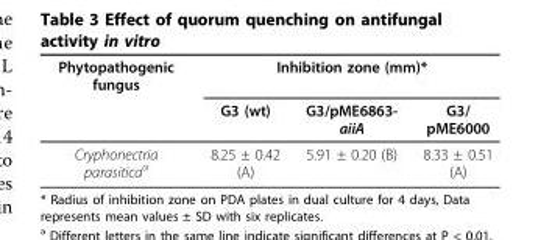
<table><thead><tr><td rowspan="2">Phytopathogenic fungus</td><td colspan="3">Inhibition zone (mm)*</td></tr><tr><td>G3 (wt)</td><td>G3/pME6863- aiiA</td><td>G3/ pME6000</td></tr></thead><tbody><tr><td>Cryphonectria parasitica<sup>a</sup></td><td>8.25 ± 0.42 (A)</td><td>5.91 ± 0.20 (B)</td><td>8.33 ± 0.51 (A)</td></tr></tbody></table>